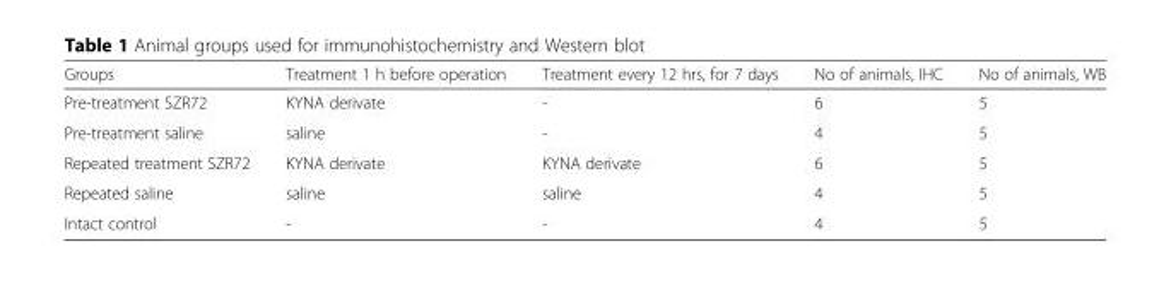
<table><thead><tr><td>Groups</td><td>Treatment 1 h before operation</td><td>Treatment every 12 hrs, for 7 days</td><td>No of animals, IHC</td><td>No of animals, WB</td></tr></thead><tbody><tr><td>Pre-treatment SZR72</td><td>KYNA derivate</td><td>-</td><td>6</td><td>5</td></tr><tr><td>Pre-treatment saline</td><td>saline</td><td>-</td><td>4</td><td>5</td></tr><tr><td>Repeated treatment SZR72</td><td>KYNA derivate</td><td>KYNA derivate</td><td>6</td><td>5</td></tr><tr><td>Repeated saline</td><td>saline</td><td>saline</td><td>4</td><td>5</td></tr><tr><td>Intact control</td><td>-</td><td>-</td><td>4</td><td>5</td></tr></tbody></table>